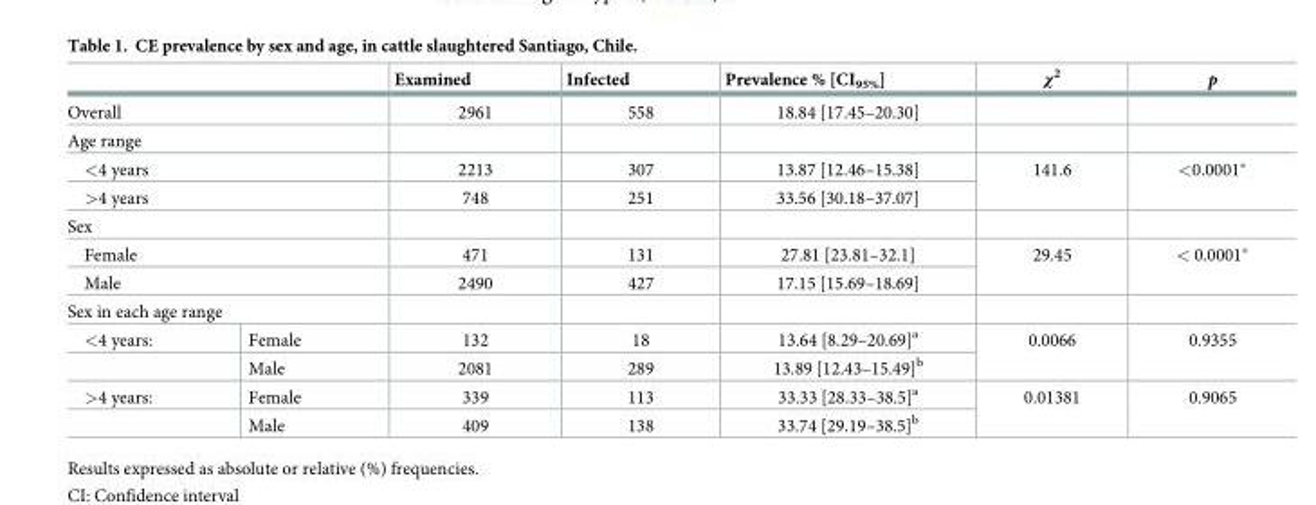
<table><thead><tr><td></td><td></td><td>Examined</td><td>Infected</td><td>Prevalence % [CI<sub>95%</sub>]</td><td>χ<sup>2</sup></td><td>p</td></tr></thead><tbody><tr><td colspan="2">Overall</td><td>2961</td><td>558</td><td>18.84 [17.45–20.30]</td><td></td><td></td></tr><tr><td colspan="7">Age range</td></tr><tr><td colspan="2">&lt;4 years</td><td>2213</td><td>307</td><td>13.87 [12.46–15.38]</td><td rowspan="2">141.6</td><td rowspan="2">&lt;0.0001*</td></tr><tr><td colspan="2">&gt;4 years</td><td>748</td><td>251</td><td>33.56 [30.18–37.07]</td></tr><tr><td colspan="7">Sex</td></tr><tr><td colspan="2">Female</td><td>471</td><td>131</td><td>27.81 [23.81–32.1]</td><td rowspan="2">29.45</td><td rowspan="2">&lt; 0.0001*</td></tr><tr><td colspan="2">Male</td><td>2490</td><td>427</td><td>17.15 [15.69–18.69]</td></tr><tr><td colspan="7">Sex in each age range</td></tr><tr><td rowspan="2">&lt;4 years:</td><td>Female</td><td>132</td><td>18</td><td>13.64 [8.29–20.69]<sup>a</sup></td><td rowspan="2">0.0066</td><td rowspan="2">0.9355</td></tr><tr><td>Male</td><td>2081</td><td>289</td><td>13.89 [12.43–15.49]<sup>b</sup></td></tr><tr><td rowspan="2">&gt;4 years:</td><td>Female</td><td>339</td><td>113</td><td>33.33 [28.33–38.5]<sup>a</sup></td><td rowspan="2">0.01381</td><td rowspan="2">0.9065</td></tr><tr><td>Male</td><td>409</td><td>138</td><td>33.74 [29.19–38.5]<sup>b</sup></td></tr></tbody></table>